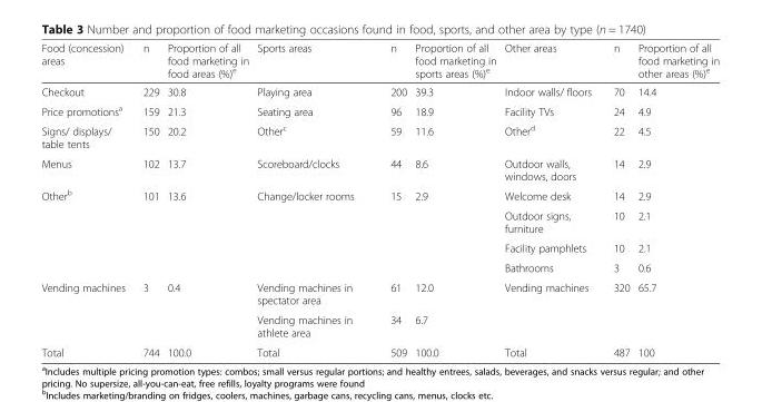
<table><thead><tr><td>Food (concession) areas</td><td>n</td><td>Proportion of all food marketing in food areas (%)<sup>e</sup></td><td>Sports areas</td><td>n</td><td>Proportion of all food marketing in sports areas (%)<sup>e</sup></td><td>Other areas</td><td>n</td><td>Proportion of all food marketing in other areas (%)<sup>e</sup></td></tr></thead><tbody><tr><td>Checkout</td><td>229</td><td>30.8</td><td>Playing area</td><td>200</td><td>39.3</td><td>Indoor walls/ floors</td><td>70</td><td>14.4</td></tr><tr><td>Price promotions<sup>a</sup></td><td>159</td><td>21.3</td><td>Seating area</td><td>96</td><td>18.9</td><td>Facility TVs</td><td>24</td><td>4.9</td></tr><tr><td>Signs/ displays/ table tents</td><td>150</td><td>20.2</td><td>Other<sup>c</sup></td><td>59</td><td>11.6</td><td>Other<sup>d</sup></td><td>22</td><td>4.5</td></tr><tr><td>Menus</td><td>102</td><td>13.7</td><td>Scoreboard/clocks</td><td>44</td><td>8.6</td><td>Outdoor walls, windows, doors</td><td>14</td><td>2.9</td></tr><tr><td rowspan="4">Other<sup>b</sup></td><td rowspan="4">101</td><td rowspan="4">13.6</td><td rowspan="4">Change/locker rooms</td><td rowspan="4">15</td><td rowspan="4">2.9</td><td>Welcome desk</td><td>14</td><td>2.9</td></tr><tr><td>Outdoor signs, furniture</td><td>10</td><td>2.1</td></tr><tr><td>Facility pamphlets</td><td>10</td><td>2.1</td></tr><tr><td>Bathrooms</td><td>3</td><td>0.6</td></tr><tr><td rowspan="2">Vending machines</td><td rowspan="2">3</td><td rowspan="2">0.4</td><td>Vending machines in spectator area</td><td>61</td><td>12.0</td><td rowspan="2">Vending machines</td><td rowspan="2">320</td><td rowspan="2">65.7</td></tr><tr><td>Vending machines in athlete area</td><td>34</td><td>6.7</td></tr><tr><td>Total</td><td>744</td><td>100.0</td><td>Total</td><td>509</td><td>100.0</td><td>Total</td><td>487</td><td>100</td></tr></tbody></table>